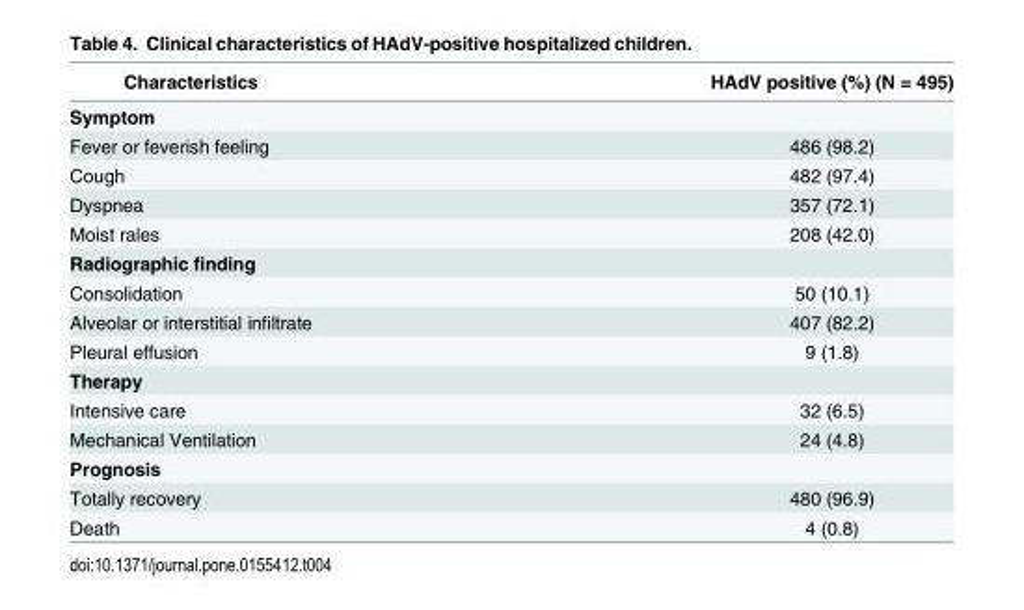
<table><thead><tr><td>Characteristics</td><td>HAdV positive (%) (N = 495)</td></tr></thead><tbody><tr><td colspan="2">Symptom</td></tr><tr><td>Fever or feverish feeling</td><td>486 (98.2)</td></tr><tr><td>Cough</td><td>482 (97.4)</td></tr><tr><td>Dyspnea</td><td>357 (72.1)</td></tr><tr><td>Moist rales</td><td>208 (42.0)</td></tr><tr><td colspan="2">Radiographic finding</td></tr><tr><td>Consolidation</td><td>50 (10.1)</td></tr><tr><td>Alveolar or interstitial infiltrate</td><td>407 (82.2)</td></tr><tr><td>Pleural effusion</td><td>9 (1.8)</td></tr><tr><td colspan="2">Therapy</td></tr><tr><td>Intensive care</td><td>32 (6.5)</td></tr><tr><td>Mechanical Ventilation</td><td>24 (4.8)</td></tr><tr><td colspan="2">Prognosis</td></tr><tr><td>Totally recovery</td><td>480 (96.9)</td></tr><tr><td>Death</td><td>4 (0.8)</td></tr></tbody></table>